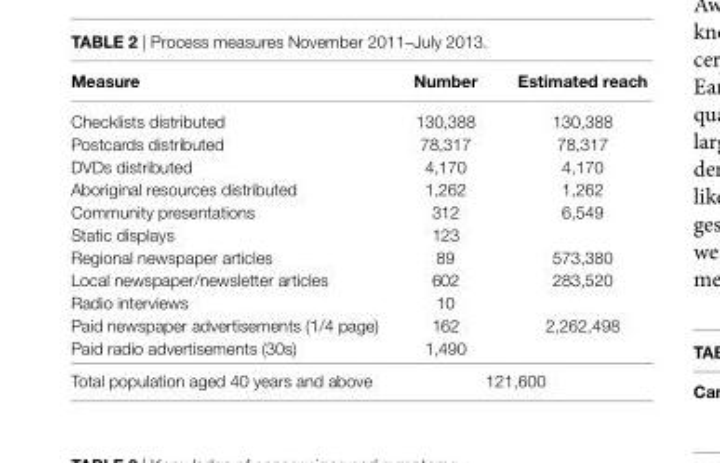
<table><thead><tr><td>Measure</td><td>number</td><td>Estimated reach</td></tr></thead><tbody><tr><td>Checklists distributed</td><td>130,388</td><td>130,388</td></tr><tr><td>Postcards distributed</td><td>78,317</td><td>78,317</td></tr><tr><td>DVDs distributed</td><td>4,170</td><td>4,170</td></tr><tr><td>Aboriginal resources distributed</td><td>1,262</td><td>1,262</td></tr><tr><td>Community presentations</td><td>312</td><td>6,549</td></tr><tr><td>Static displays</td><td>123</td><td></td></tr><tr><td>Regional newspaper articles</td><td>89</td><td>573,380</td></tr><tr><td>Local newspaper/newsletter articles</td><td>602</td><td>283,520</td></tr><tr><td>Radio interviews</td><td>10</td><td></td></tr><tr><td>Paid newspaper advertisements (1/4 page)</td><td>162</td><td>2,262,498</td></tr><tr><td>Paid radio advertisements (30s)</td><td>1,490</td><td></td></tr><tr><td>Total population aged 40 years and above</td><td colspan="2">121,600</td></tr></tbody></table>